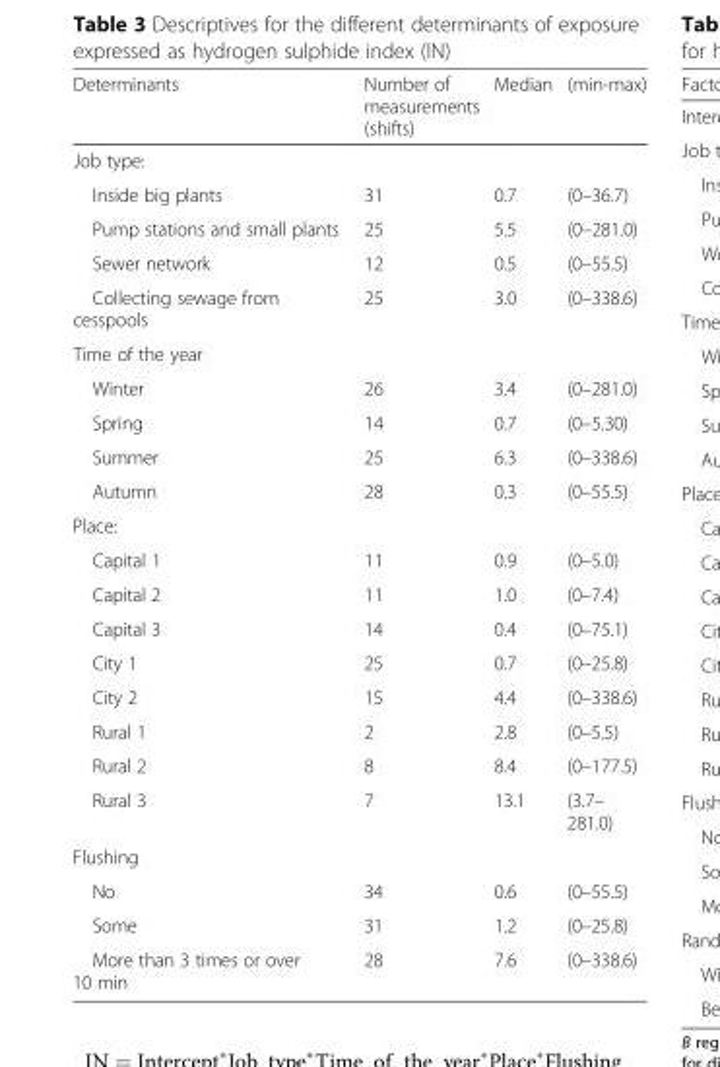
<table><thead><tr><td>Determinants</td><td>Number of measurements (shifts)</td><td>Median</td><td>(min-max)</td></tr></thead><tbody><tr><td colspan="4">Job type:</td></tr><tr><td>Inside big plants</td><td>31</td><td>0.7</td><td>(0–36.7)</td></tr><tr><td>Pump stations and small plants</td><td>25</td><td>5.5</td><td>(0–281.0)</td></tr><tr><td>Sewer network</td><td>12</td><td>0.5</td><td>(0–55.5)</td></tr><tr><td>Collecting sewage from cesspools</td><td>25</td><td>3.0</td><td>(0–338.6)</td></tr><tr><td colspan="4">Time of the year</td></tr><tr><td>Winter</td><td>26</td><td>3.4</td><td>(0–281.0)</td></tr><tr><td>Spring</td><td>14</td><td>0.7</td><td>(0–5.30)</td></tr><tr><td>Summer</td><td>25</td><td>6.3</td><td>(0–338.6)</td></tr><tr><td>Autumn</td><td>28</td><td>0.3</td><td>(0–55.5)</td></tr><tr><td colspan="4">Place:</td></tr><tr><td>Capital 1</td><td>11</td><td>0.9</td><td>(0–5.0)</td></tr><tr><td>Capital 2</td><td>11</td><td>1.0</td><td>(0–7.4)</td></tr><tr><td>Capital 3</td><td>14</td><td>0.4</td><td>(0–75.1)</td></tr><tr><td>City 1</td><td>25</td><td>0.7</td><td>(0–25.8)</td></tr><tr><td>City 2</td><td>15</td><td>4.4</td><td>(0–338.6)</td></tr><tr><td>Rural 1</td><td>2</td><td>2.8</td><td>(0–5.5)</td></tr><tr><td>Rural 2</td><td>8</td><td>8.4</td><td>(0–177.5)</td></tr><tr><td>Rural 3</td><td>7</td><td>13.1</td><td>(3.7– 281.0)</td></tr><tr><td colspan="4">Flushing</td></tr><tr><td>No</td><td>34</td><td>0.6</td><td>(0–55.5)</td></tr><tr><td>Some</td><td>31</td><td>1.2</td><td>(0–25.8)</td></tr><tr><td>More than 3 times or over 10 min</td><td>28</td><td>7.6</td><td>(0–338.6)</td></tr></tbody></table>